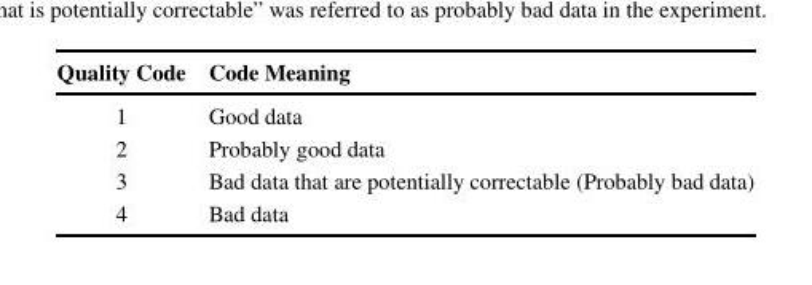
<table><thead><tr><td>Quality Code</td><td>Code Meaning</td></tr></thead><tbody><tr><td>1</td><td>Good data</td></tr><tr><td>2</td><td>Probably good data</td></tr><tr><td>3</td><td>Bad data that are potentially correctable (Probably bad data)</td></tr><tr><td>4</td><td>Bad data</td></tr></tbody></table>